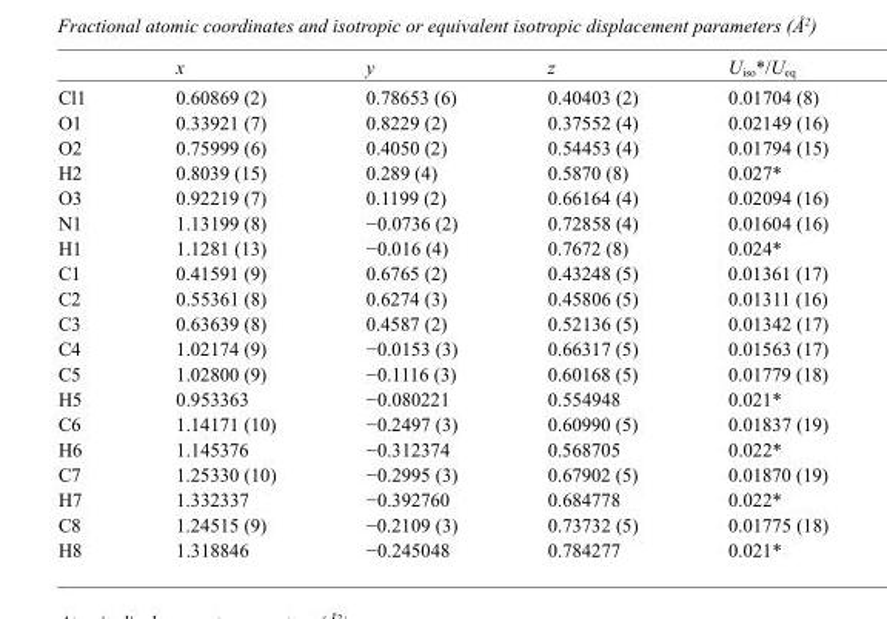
<table><thead><tr><td></td><td>x</td><td>y</td><td>z</td><td>U<sub>iso</sub>*/U<sub>eq</sub></td></tr></thead><tbody><tr><td>Cl1</td><td>0.60869 (2)</td><td>0.78653 (6)</td><td>0.40403 (2)</td><td>0.01704 (8)</td></tr><tr><td>O1</td><td>0.33921 (7)</td><td>0.8229 (2)</td><td>0.37552 (4)</td><td>0.02149 (16)</td></tr><tr><td>O2</td><td>0.75999 (6)</td><td>0.4050 (2)</td><td>0.54453 (4)</td><td>0.01794 (15)</td></tr><tr><td>H2</td><td>0.8039 (15)</td><td>0.289 (4)</td><td>0.5870 (8)</td><td>0.027*</td></tr><tr><td>O3</td><td>0.92219 (7)</td><td>0.1199 (2)</td><td>0.66164 (4)</td><td>0.02094 (16)</td></tr><tr><td>N1</td><td>1.13199 (8)</td><td>−0.0736 (2)</td><td>0.72858 (4)</td><td>0.01604 (16)</td></tr><tr><td>H1</td><td>1.1281 (13)</td><td>−0.016 (4)</td><td>0.7672 (8)</td><td>0.024*</td></tr><tr><td>C1</td><td>0.41591 (9)</td><td>0.6765 (2)</td><td>0.43248 (5)</td><td>0.01361 (17)</td></tr><tr><td>C2</td><td>0.55361 (8)</td><td>0.6274 (3)</td><td>0.45806 (5)</td><td>0.01311 (16)</td></tr><tr><td>C3</td><td>0.63639 (8)</td><td>0.4587 (2)</td><td>0.52136 (5)</td><td>0.01342 (17)</td></tr><tr><td>C4</td><td>1.02174 (9)</td><td>−0.0153 (3)</td><td>0.66317 (5)</td><td>0.01563 (17)</td></tr><tr><td>C5</td><td>1.02800 (9)</td><td>−0.1116 (3)</td><td>0.60168 (5)</td><td>0.01779 (18)</td></tr><tr><td>H5</td><td>0.953363</td><td>−0.080221</td><td>0.554948</td><td>0.021*</td></tr><tr><td>C6</td><td>1.14171 (10)</td><td>−0.2497 (3)</td><td>0.60990 (5)</td><td>0.01837 (19)</td></tr><tr><td>H6</td><td>1.145376</td><td>−0.312374</td><td>0.568705</td><td>0.022*</td></tr><tr><td>C7</td><td>1.25330 (10)</td><td>−0.2995 (3)</td><td>0.67902 (5)</td><td>0.01870 (19)</td></tr><tr><td>H7</td><td>1.332337</td><td>−0.392760</td><td>0.684778</td><td>0.022*</td></tr><tr><td>C8</td><td>1.24515 (9)</td><td>−0.2109 (3)</td><td>0.73732 (5)</td><td>0.01775 (18)</td></tr><tr><td>H8</td><td>1.318846</td><td>−0.245048</td><td>0.784277</td><td>0.021*</td></tr></tbody></table>